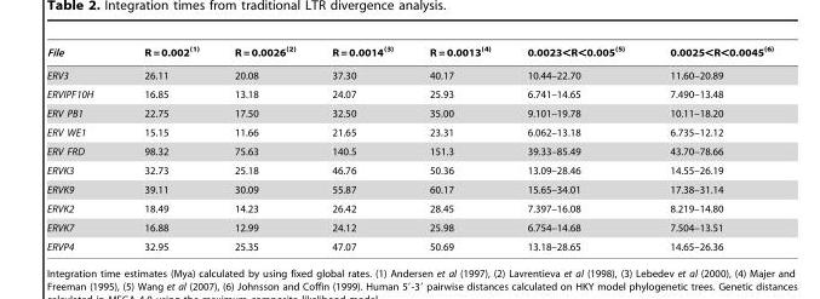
<table><thead><tr><td>File</td><td>R = 0.002<sup>(1)</sup></td><td>R = 0.0026<sup>(2)</sup></td><td>R = 0.0014<sup>(3)</sup></td><td>R = 0.0013<sup>(4)</sup></td><td>0.0023&lt;R&lt;0.005<sup>(5)</sup></td><td>0.0025&lt;R&lt;0.0045<sup>(6)</sup></td></tr></thead><tbody><tr><td>ERV3</td><td>26.11</td><td>20.08</td><td>37.30</td><td>40.17</td><td>10.44–22.70</td><td>11.60–20.89</td></tr><tr><td>ERVIPF10H</td><td>16.85</td><td>13.18</td><td>24.07</td><td>25.93</td><td>6.741–14.65</td><td>7.490–13.48</td></tr><tr><td>ERV PB1</td><td>22.75</td><td>17.50</td><td>32.50</td><td>35.00</td><td>9.101–19.78</td><td>10.11–18.20</td></tr><tr><td>ERV WE1</td><td>15.15</td><td>11.66</td><td>21.65</td><td>23.31</td><td>6.062–13.18</td><td>6.735–12.12</td></tr><tr><td>ERV FRD</td><td>98.32</td><td>75.63</td><td>140.5</td><td>151.3</td><td>39.33–85.49</td><td>43.70–78.66</td></tr><tr><td>ERVK3</td><td>32.73</td><td>25.18</td><td>46.76</td><td>50.36</td><td>13.09–28.46</td><td>14.55–26.19</td></tr><tr><td>ERVK9</td><td>39.11</td><td>30.09</td><td>55.87</td><td>60.17</td><td>15.65–34.01</td><td>17.38–31.14</td></tr><tr><td>ERVK2</td><td>18.49</td><td>14.23</td><td>26.42</td><td>28.45</td><td>7.397–16.08</td><td>8.219–14.80</td></tr><tr><td>ERVK7</td><td>16.88</td><td>12.99</td><td>24.12</td><td>25.98</td><td>6.754–14.68</td><td>7.504–13.51</td></tr><tr><td>ERVP4</td><td>32.95</td><td>25.35</td><td>47.07</td><td>50.69</td><td>13.18–28.65</td><td>14.65–26.36</td></tr></tbody></table>